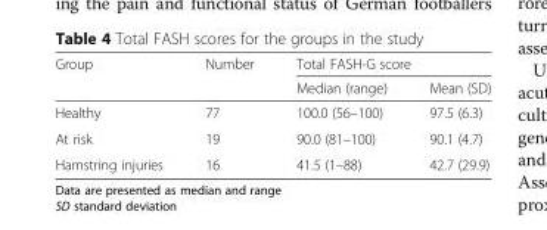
<table><thead><tr><td rowspan="2">Group</td><td rowspan="2">Number</td><td colspan="2">Total FASH-G score</td></tr><tr><td>Median (range)</td><td>Mean (SD)</td></tr></thead><tbody><tr><td>Healthy</td><td>77</td><td>100.0 (56–100)</td><td>97.5 (6.3)</td></tr><tr><td>At risk</td><td>19</td><td>90.0 (81–100)</td><td>90.1 (4.7)</td></tr><tr><td>Hamstring injuries</td><td>16</td><td>41.5 (1–88)</td><td>42.7 (29.9)</td></tr></tbody></table>